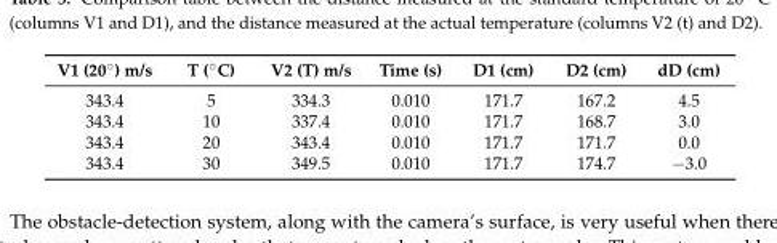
<table><thead><tr><td>V1 (20˝) m/s</td><td>T (˝C)</td><td>V2 (T) m/s</td><td>Time (s)</td><td>D1 (cm)</td><td>D2 (cm)</td><td>dD (cm)</td></tr></thead><tbody><tr><td>343.4</td><td>5</td><td>334.3</td><td>0.010</td><td>171.7</td><td>167.2</td><td>4.5</td></tr><tr><td>343.4</td><td>10</td><td>337.4</td><td>0.010</td><td>171.7</td><td>168.7</td><td>3.0</td></tr><tr><td>343.4</td><td>20</td><td>343.4</td><td>0.010</td><td>171.7</td><td>171.7</td><td>0.0</td></tr><tr><td>343.4</td><td>30</td><td>349.5</td><td>0.010</td><td>171.7</td><td>174.7</td><td>−3.0</td></tr></tbody></table>